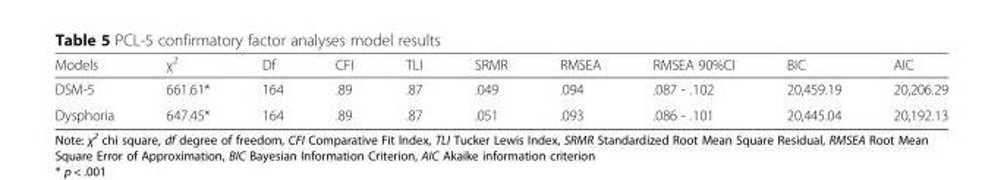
<table><thead><tr><td>Models</td><td>χ<sup>2</sup></td><td>Df</td><td>CFI</td><td>TLI</td><td>SRMR</td><td>RMSEA</td><td>RMSEA 90%CI</td><td>BIC</td><td>AIC</td></tr></thead><tbody><tr><td>DSM-5</td><td>661.61*</td><td>164</td><td>.89</td><td>.87</td><td>.049</td><td>.094</td><td>.087 - .102</td><td>20,459.19</td><td>20,206.29</td></tr><tr><td>Dysphoria</td><td>647.45*</td><td>164</td><td>.89</td><td>.87</td><td>.051</td><td>.093</td><td>.086 - .101</td><td>20,445.04</td><td>20,192.13</td></tr></tbody></table>